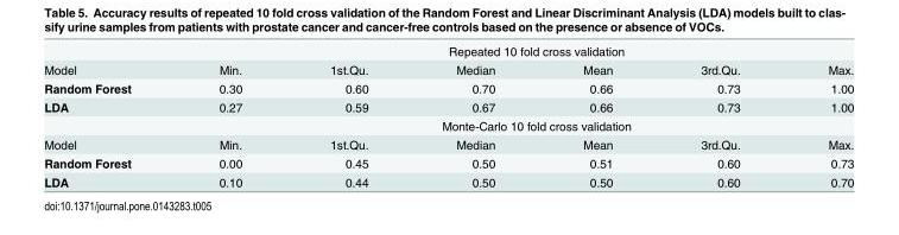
<table><thead><tr><td rowspan="2">Model</td><td colspan="6">Repeated 10 fold cross validation</td></tr><tr><td>Min.</td><td>1st.Qu.</td><td>Median</td><td>Mean</td><td>3rd.Qu.</td><td>Max.</td></tr></thead><tbody><tr><td>Random Forest</td><td>0.30</td><td>0.60</td><td>0.70</td><td>0.66</td><td>0.73</td><td>1.00</td></tr><tr><td rowspan="2">LDA</td><td>0.27</td><td>0.59</td><td>0.67</td><td>0.66</td><td>0.73</td><td>1.00</td></tr><tr><td colspan="6">Monte-Carlo 10 fold cross validation</td></tr><tr><td>Model</td><td>Min.</td><td>1st.Qu.</td><td>Median</td><td>Mean</td><td>3rd.Qu.</td><td>Max.</td></tr><tr><td>Random Forest</td><td>0.00</td><td>0.45</td><td>0.50</td><td>0.51</td><td>0.60</td><td>0.73</td></tr><tr><td>LDA</td><td>0.10</td><td>0.44</td><td>0.50</td><td>0.50</td><td>0.60</td><td>0.70</td></tr></tbody></table>